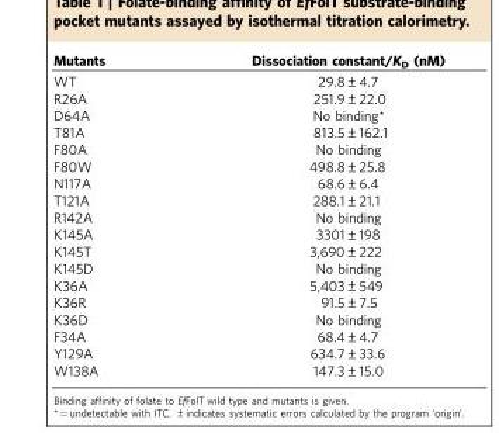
<table><thead><tr><td>Mutants</td><td>Dissociation constant/K<sub>D</sub> (nM)</td></tr></thead><tbody><tr><td>WT</td><td>29.8±4.7</td></tr><tr><td>R26A</td><td>251.9±22.0</td></tr><tr><td>D64A</td><td>No binding*</td></tr><tr><td>T81A</td><td>813.5±162.1</td></tr><tr><td>F80A</td><td>No binding</td></tr><tr><td>F80W</td><td>498.8±25.8</td></tr><tr><td>N117A</td><td>68.6±6.4</td></tr><tr><td>T121A</td><td>288.1±21.1</td></tr><tr><td>R142A</td><td>No binding</td></tr><tr><td>K145A</td><td>3301±198</td></tr><tr><td>K145T</td><td>3,690±222</td></tr><tr><td>K145D</td><td>No binding</td></tr><tr><td>K36A</td><td>5,403±549</td></tr><tr><td>K36R</td><td>91.5±7.5</td></tr><tr><td>K36D</td><td>No binding</td></tr><tr><td>F34A</td><td>68.4±4.7</td></tr><tr><td>Y129A</td><td>634.7±33.6</td></tr><tr><td>W138A</td><td>147.3±15.0</td></tr></tbody></table>